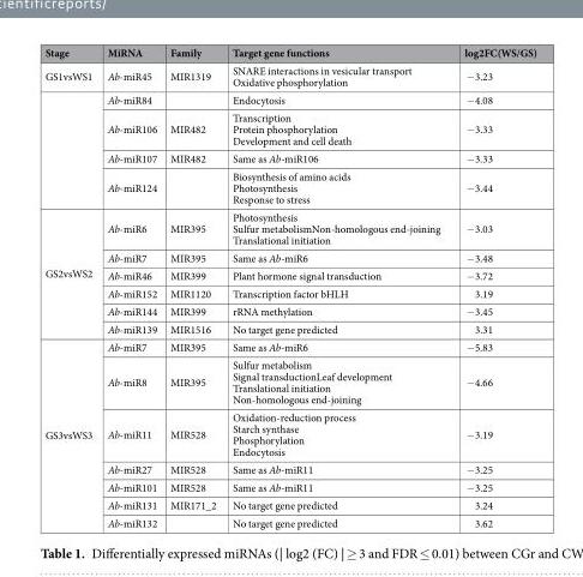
<table><thead><tr><td>Stage</td><td>MiRNA</td><td>Family</td><td>Target gene functions</td><td>log2FC(WS/GS)</td></tr></thead><tbody><tr><td rowspan="5">GS1vsWS1</td><td>Ab-miR45</td><td>MIR1319</td><td>SNARE interactions in vesicular transport Oxidative phosphorylation</td><td>−3.23</td></tr><tr><td>Ab-miR84</td><td></td><td>Endocytosis</td><td>−4.08</td></tr><tr><td>Ab-miR106</td><td>MIR482</td><td>Transcription Protein phosphorylation Development and cell death</td><td>−3.33</td></tr><tr><td>Ab-miR107</td><td>MIR482</td><td>Same as Ab-miR106</td><td>−3.33</td></tr><tr><td>Ab-miR124</td><td></td><td>Biosynthesis of amino acids Photosynthesis Response to stress</td><td>−3.44</td></tr><tr><td rowspan="6">GS2vsWS2</td><td>Ab-miR6</td><td>MIR395</td><td>Photosynthesis Sulfur metabolismNon-homologous end-joining Translational initiation</td><td>−3.03</td></tr><tr><td>Ab-miR7</td><td>MIR395</td><td>Same as Ab-miR6</td><td>−3.48</td></tr><tr><td>Ab-miR46</td><td>MIR399</td><td>Plant hormone signal transduction</td><td>−3.72</td></tr><tr><td>Ab-miR152</td><td>MIR1120</td><td>Transcription factor bHLH</td><td>3.19</td></tr><tr><td>Ab-miR144</td><td>MIR399</td><td>rRNA methylation</td><td>−3.45</td></tr><tr><td>Ab-miR139</td><td>MIR1516</td><td>No target gene predicted</td><td>3.31</td></tr><tr><td rowspan="7">GS3vsWS3</td><td>Ab-miR7</td><td>MIR395</td><td>Same as Ab-miR6</td><td>−5.83</td></tr><tr><td>Ab-miR8</td><td>MIR395</td><td>Sulfur metabolism Signal transductionLeaf development Translational initiation Non-homologous end-joining</td><td>−4.66</td></tr><tr><td>Ab-miR11</td><td>MIR528</td><td>Oxidation-reduction process Starch synthase Phosphorylation Endocytosis</td><td>−3.19</td></tr><tr><td>Ab-miR27</td><td>MIR528</td><td>Same as Ab-miR11</td><td>−3.25</td></tr><tr><td>Ab-miR101</td><td>MIR528</td><td>Same as Ab-miR11</td><td>−3.25</td></tr><tr><td>Ab-miR131</td><td>MIR171_2</td><td>No target gene predicted</td><td>3.24</td></tr><tr><td>Ab-miR132</td><td></td><td>No target gene predicted</td><td>3.62</td></tr></tbody></table>